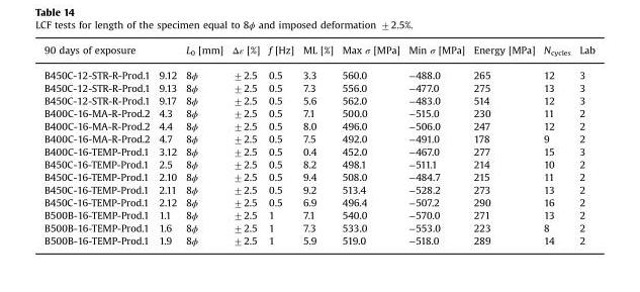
<table><thead><tr><td>90 days of exposure</td><td></td><td>L<sub>0</sub> [mm]</td><td>Δε [%]</td><td>f [Hz]</td><td>ML [%]</td><td>Max σ [MPa]</td><td>Min σ [MPa]</td><td>Energy [MPa]</td><td>N<sub>cycles</sub></td><td>Lab</td></tr></thead><tbody><tr><td>B450C-12-STR-R-Prod.1</td><td>9.12</td><td>8ϕ</td><td>±2.5</td><td>0.5</td><td>3.3</td><td>560.0</td><td>−488.0</td><td>265</td><td>12</td><td>3</td></tr><tr><td>B450C-12-STR-R-Prod.1</td><td>9.13</td><td>8ϕ</td><td>±2.5</td><td>0.5</td><td>7.3</td><td>556.0</td><td>−477.0</td><td>275</td><td>13</td><td>3</td></tr><tr><td>B450C-12-STR-R-Prod.1</td><td>9.17</td><td>8ϕ</td><td>±2.5</td><td>0.5</td><td>5.6</td><td>562.0</td><td>−483.0</td><td>514</td><td>12</td><td>3</td></tr><tr><td>B400C-16-MA-R-Prod.2</td><td>4.3</td><td>8ϕ</td><td>±2.5</td><td>0.5</td><td>7.1</td><td>500.0</td><td>−515.0</td><td>230</td><td>11</td><td>2</td></tr><tr><td>B400C-16-MA-R-Prod.2</td><td>4.4</td><td>8ϕ</td><td>±2.5</td><td>0.5</td><td>8.0</td><td>496.0</td><td>−506.0</td><td>247</td><td>12</td><td>2</td></tr><tr><td>B400C-16-MA-R-Prod.2</td><td>4.7</td><td>8ϕ</td><td>±2.5</td><td>0.5</td><td>7.5</td><td>492.0</td><td>−491.0</td><td>178</td><td>9</td><td>2</td></tr><tr><td>B400C-16-TEMP-Prod.1</td><td>3.12</td><td>8ϕ</td><td>±2.5</td><td>0.5</td><td>0.4</td><td>452.0</td><td>−467.0</td><td>277</td><td>15</td><td>3</td></tr><tr><td>B450C-16-TEMP-Prod.1</td><td>2.5</td><td>8ϕ</td><td>±2.5</td><td>0.5</td><td>8.2</td><td>498.1</td><td>−511.1</td><td>214</td><td>10</td><td>2</td></tr><tr><td>B450C-16-TEMP-Prod.1</td><td>2.10</td><td>8ϕ</td><td>±2.5</td><td>0.5</td><td>9.4</td><td>508.0</td><td>−484.7</td><td>215</td><td>11</td><td>2</td></tr><tr><td>B450C-16-TEMP-Prod.1</td><td>2.11</td><td>8ϕ</td><td>±2.5</td><td>0.5</td><td>9.2</td><td>513.4</td><td>−528.2</td><td>273</td><td>13</td><td>2</td></tr><tr><td>B450C-16-TEMP-Prod.1</td><td>2.12</td><td>8ϕ</td><td>±2.5</td><td>0.5</td><td>6.9</td><td>496.4</td><td>−507.2</td><td>290</td><td>16</td><td>2</td></tr><tr><td>B500B-16-TEMP-Prod.1</td><td>1.1</td><td>8ϕ</td><td>±2.5</td><td>1</td><td>7.1</td><td>540.0</td><td>−570.0</td><td>271</td><td>13</td><td>2</td></tr><tr><td>B500B-16-TEMP-Prod.1</td><td>1.6</td><td>8ϕ</td><td>±2.5</td><td>1</td><td>7.3</td><td>533.0</td><td>−553.0</td><td>223</td><td>8</td><td>2</td></tr><tr><td>B500B-16-TEMP-Prod.1</td><td>1.9</td><td>8ϕ</td><td>±2.5</td><td>1</td><td>5.9</td><td>519.0</td><td>−518.0</td><td>289</td><td>14</td><td>2</td></tr></tbody></table>